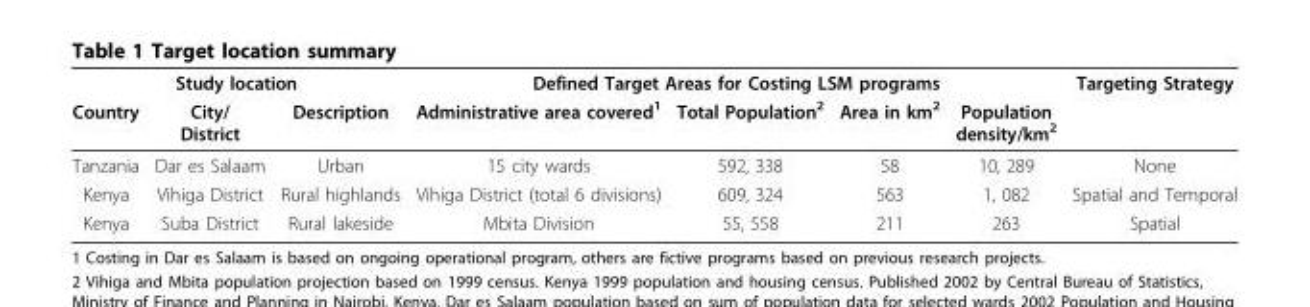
<table><thead><tr><td colspan="3">Study location</td><td colspan="4">Defined Target Areas for Costing LSM programs</td><td rowspan="2">Targeting Strategy</td></tr><tr><td>Country</td><td>City/ District</td><td>Description</td><td>Administrative area covered<sup>1</sup></td><td>Total Population<sup>2</sup></td><td>Area in km<sup>2</sup></td><td>Population density/km<sup>2</sup></td></tr></thead><tbody><tr><td>Tanzania</td><td>Dar es Salaam</td><td>Urban</td><td>15 city wards</td><td>592, 338</td><td>58</td><td>10, 289</td><td>None</td></tr><tr><td>Kenya</td><td>Vihiga District</td><td>Rural highlands</td><td>Vihiga District (total 6 divisions)</td><td>609, 324</td><td>563</td><td>1, 082</td><td>Spatial and Temporal</td></tr><tr><td>Kenya</td><td>Suba District</td><td>Rural lakeside</td><td>Mbita Division</td><td>55, 558</td><td>211</td><td>263</td><td>Spatial</td></tr></tbody></table>